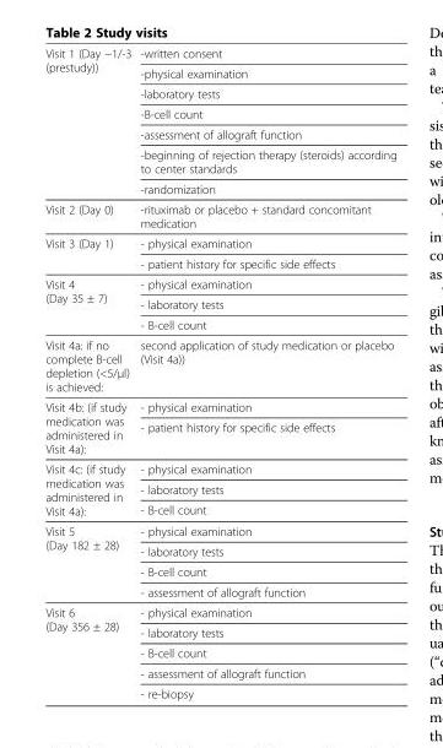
<table><tbody><tr><td rowspan="7">Visit 1 (Day −1/-3 (prestudy))</td><td>-written consent</td></tr><tr><td>-physical examination</td></tr><tr><td>-laboratory tests</td></tr><tr><td>-B-cell count</td></tr><tr><td>-assessment of allograft function</td></tr><tr><td>-beginning of rejection therapy (steroids) according to center standards</td></tr><tr><td>-randomization</td></tr><tr><td>Visit 2 (Day 0)</td><td>-rituximab or placebo + standard concomitant medication</td></tr><tr><td rowspan="2">Visit 3 (Day 1)</td><td>- physical examination</td></tr><tr><td>- patient history for specific side effects</td></tr><tr><td rowspan="3">Visit 4 (Day 35 ± 7)</td><td>- physical examination</td></tr><tr><td>- laboratory tests</td></tr><tr><td>- B-cell count</td></tr><tr><td>Visit 4a: if no complete B-cell depletion (&lt;5/μl) is achieved:</td><td>second application of study medication or placebo (Visit 4a))</td></tr><tr><td rowspan="2">Visit 4b: (if study medication was administered in Visit 4a):</td><td>- physical examination</td></tr><tr><td>- patient history for specific side effects</td></tr><tr><td rowspan="3">Visit 4c: (if study medication was administered in Visit 4a):</td><td>- physical examination</td></tr><tr><td>- laboratory tests</td></tr><tr><td>- B-cell count</td></tr><tr><td rowspan="4">Visit 5 (Day 182 ± 28)</td><td>- physical examination</td></tr><tr><td>- laboratory tests</td></tr><tr><td>- B-cell count</td></tr><tr><td>- assessment of allograft function</td></tr><tr><td rowspan="5">Visit 6 (Day 356 ± 28)</td><td>- physical examination</td></tr><tr><td>- laboratory tests</td></tr><tr><td>- B-cell count</td></tr><tr><td>- assessment of allograft function</td></tr><tr><td>- re-biopsy</td></tr></tbody></table>